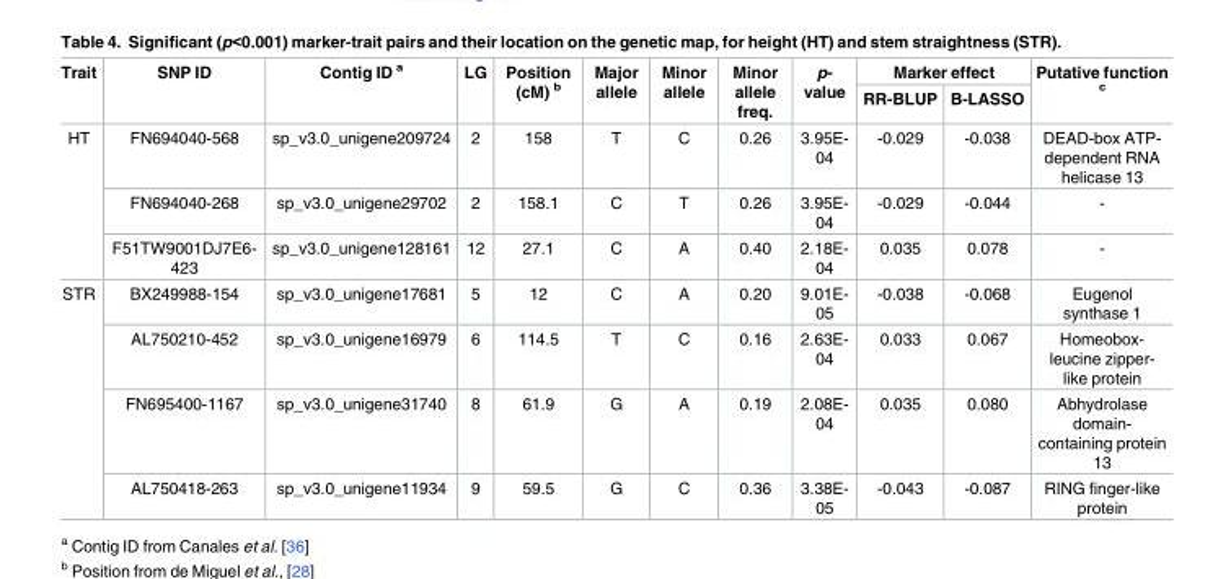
<table><thead><tr><td rowspan="2">Trait</td><td rowspan="2">SNP ID</td><td rowspan="2">Contig ID <sup>a</sup></td><td rowspan="2">LG</td><td rowspan="2">Position (cM) <sup>b</sup></td><td rowspan="2">Major allele</td><td rowspan="2">Minor allele</td><td rowspan="2">Minor allele freq.</td><td rowspan="2">p- value</td><td colspan="2">Marker effect</td><td rowspan="2">Putative function <sup>c</sup></td></tr><tr><td>RR-BLUP</td><td>B-LASSO</td></tr></thead><tbody><tr><td rowspan="3">HT</td><td>FN694040-568</td><td>sp_v3.0_unigene209724</td><td>2</td><td>158</td><td>T</td><td>C</td><td>0.26</td><td>3.95E- 04</td><td>-0.029</td><td>-0.038</td><td>DEAD-box ATP- dependent RNA helicase 13</td></tr><tr><td>FN694040-268</td><td>sp_v3.0_unigene29702</td><td>2</td><td>158.1</td><td>C</td><td>T</td><td>0.26</td><td>3.95E- 04</td><td>-0.029</td><td>-0.044</td><td>-</td></tr><tr><td>F51TW9001DJ7E6- 423</td><td>sp_v3.0_unigene128161</td><td>12</td><td>27.1</td><td>C</td><td>A</td><td>0.40</td><td>2.18E- 04</td><td>0.035</td><td>0.078</td><td>-</td></tr><tr><td rowspan="4">STR</td><td>BX249988-154</td><td>sp_v3.0_unigene17681</td><td>5</td><td>12</td><td>C</td><td>A</td><td>0.20</td><td>9.01E- 05</td><td>-0.038</td><td>-0.068</td><td>Eugenol synthase 1</td></tr><tr><td>AL750210-452</td><td>sp_v3.0_unigene16979</td><td>6</td><td>114.5</td><td>T</td><td>C</td><td>0.16</td><td>2.63E- 04</td><td>0.033</td><td>0.067</td><td>Homeobox- leucine zipper- like protein</td></tr><tr><td>FN695400-1167</td><td>sp_v3.0_unigene31740</td><td>8</td><td>61.9</td><td>G</td><td>A</td><td>0.19</td><td>2.08E- 04</td><td>0.035</td><td>0.080</td><td>Abhydrolase domain- containing protein 13</td></tr><tr><td>AL750418-263</td><td>sp_v3.0_unigene11934</td><td>9</td><td>59.5</td><td>G</td><td>C</td><td>0.36</td><td>3.38E- 05</td><td>-0.043</td><td>-0.087</td><td>RING finger-like protein</td></tr></tbody></table>